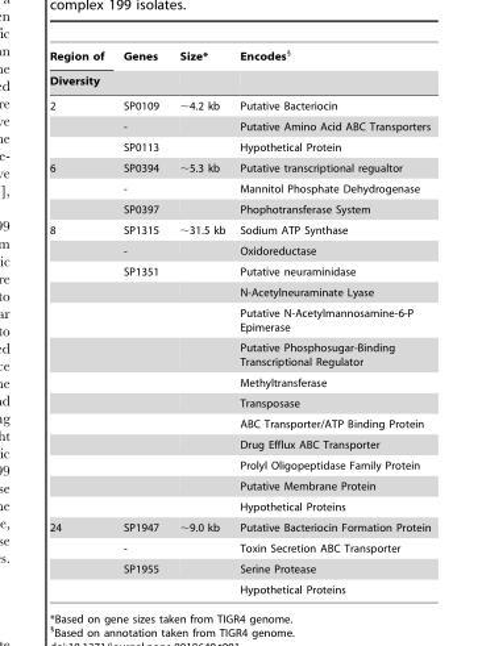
<table><thead><tr><td rowspan="2">Region of Diversity</td><td rowspan="2">Genes</td><td rowspan="2">Size*</td><td rowspan="2">Encodes§</td></tr><tr></tr></thead><tbody><tr><td rowspan="3">2</td><td>SP0109</td><td>∼4.2 kb</td><td>Putative Bacteriocin</td></tr><tr><td>-</td><td></td><td>Putative Amino Acid ABC Transporters</td></tr><tr><td>SP0113</td><td></td><td>Hypothetical Protein</td></tr><tr><td rowspan="3">6</td><td>SP0394</td><td>∼5.3 kb</td><td>Putative transcriptional regualtor</td></tr><tr><td>-</td><td></td><td>Mannitol Phosphate Dehydrogenase</td></tr><tr><td>SP0397</td><td></td><td>Phophotransferase System</td></tr><tr><td rowspan="13">8</td><td>SP1315</td><td>∼31.5 kb</td><td>Sodium ATP Synthase</td></tr><tr><td>-</td><td></td><td>Oxidoreductase</td></tr><tr><td>SP1351</td><td></td><td>Putative neuraminidase</td></tr><tr><td></td><td></td><td>N-Acetylneuraminate Lyase</td></tr><tr><td></td><td></td><td>Putative N-Acetylmannosamine-6-P Epimerase</td></tr><tr><td></td><td></td><td>Putative Phosphosugar-Binding Transcriptional Regulator</td></tr><tr><td></td><td></td><td>Methyltransferase</td></tr><tr><td></td><td></td><td>Transposase</td></tr><tr><td></td><td></td><td>ABC Transporter/ATP Binding Protein</td></tr><tr><td></td><td></td><td>Drug Efflux ABC Transporter</td></tr><tr><td></td><td></td><td>Prolyl Oligopeptidase Family Protein</td></tr><tr><td></td><td></td><td>Putative Membrane Protein</td></tr><tr><td></td><td></td><td>Hypothetical Proteins</td></tr><tr><td rowspan="4">24</td><td>SP1947</td><td>∼9.0 kb</td><td>Putative Bacteriocin Formation Protein</td></tr><tr><td>-</td><td></td><td>Toxin Secretion ABC Transporter</td></tr><tr><td>SP1955</td><td></td><td>Serine Protease</td></tr><tr><td></td><td></td><td>Hypothetical Proteins</td></tr></tbody></table>